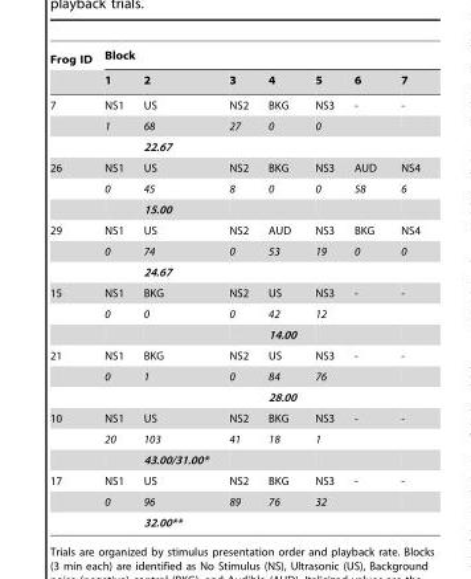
<table><thead><tr><td rowspan="2">Frog ID</td><td colspan="7">Block</td></tr><tr><td>1</td><td>2</td><td>3</td><td>4</td><td>5</td><td>6</td><td>7</td></tr></thead><tbody><tr><td rowspan="3">7</td><td>NS1</td><td>US</td><td>NS2</td><td>BKG</td><td>NS3</td><td>-</td><td>-</td></tr><tr><td>1</td><td>68</td><td>27</td><td>0</td><td>0</td><td></td><td></td></tr><tr><td></td><td>22.67</td><td></td><td></td><td></td><td></td><td></td></tr><tr><td rowspan="3">26</td><td>NS1</td><td>US</td><td>NS2</td><td>BKG</td><td>NS3</td><td>AUD</td><td>NS4</td></tr><tr><td>0</td><td>45</td><td>8</td><td>0</td><td>0</td><td>58</td><td>6</td></tr><tr><td></td><td>15.00</td><td></td><td></td><td></td><td></td><td></td></tr><tr><td rowspan="3">29</td><td>NS1</td><td>US</td><td>NS2</td><td>AUD</td><td>NS3</td><td>BKG</td><td>NS4</td></tr><tr><td>0</td><td>74</td><td>0</td><td>53</td><td>19</td><td>0</td><td>0</td></tr><tr><td></td><td>24.67</td><td></td><td></td><td></td><td></td><td></td></tr><tr><td rowspan="3">15</td><td>NS1</td><td>BKG</td><td>NS2</td><td>US</td><td>NS3</td><td>-</td><td>-</td></tr><tr><td>0</td><td>0</td><td>0</td><td>42</td><td>12</td><td></td><td></td></tr><tr><td></td><td></td><td></td><td>14.00</td><td></td><td></td><td></td></tr><tr><td rowspan="3">21</td><td>NS1</td><td>BKG</td><td>NS2</td><td>US</td><td>NS3</td><td>-</td><td>-</td></tr><tr><td>0</td><td>1</td><td>0</td><td>84</td><td>76</td><td></td><td></td></tr><tr><td></td><td></td><td></td><td>28.00</td><td></td><td></td><td></td></tr><tr><td rowspan="3">10</td><td>NS1</td><td>US</td><td>NS2</td><td>BKG</td><td>NS3</td><td>-</td><td>-</td></tr><tr><td>20</td><td>103</td><td>41</td><td>18</td><td>1</td><td></td><td></td></tr><tr><td></td><td>43.00/31.00*</td><td></td><td></td><td></td><td></td><td></td></tr><tr><td rowspan="3">17</td><td>NS1</td><td>US</td><td>NS2</td><td>BKG</td><td>NS3</td><td>-</td><td>-</td></tr><tr><td>0</td><td>96</td><td>89</td><td>76</td><td>32</td><td></td><td></td></tr><tr><td></td><td>32.00**</td><td></td><td></td><td></td><td></td><td></td></tr></tbody></table>